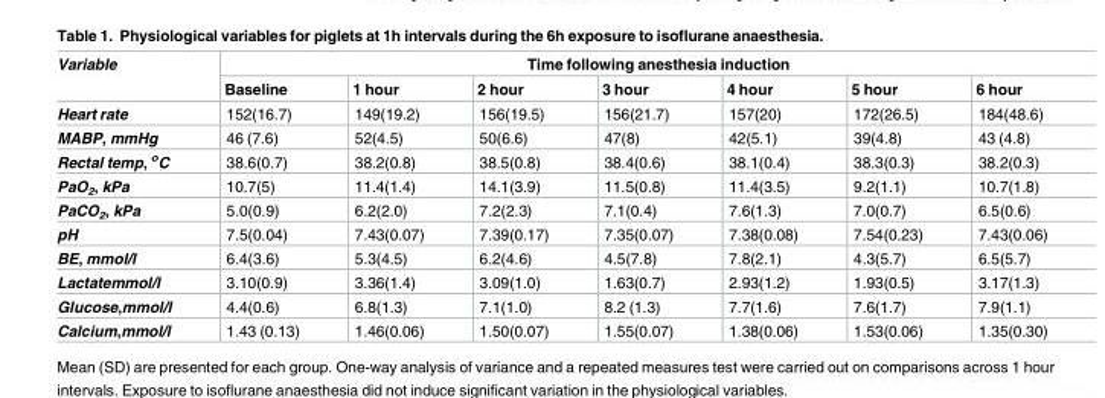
<table><thead><tr><td rowspan="2">Variable</td><td colspan="7">Time following anesthesia induction</td></tr><tr><td>Baseline</td><td>1 hour</td><td>2 hour</td><td>3 hour</td><td>4 hour</td><td>5 hour</td><td>6 hour</td></tr></thead><tbody><tr><td>Heart rate</td><td>152(16.7)</td><td>149(19.2)</td><td>156(19.5)</td><td>156(21.7)</td><td>157(20)</td><td>172(26.5)</td><td>184(48.6)</td></tr><tr><td>MABP, mmHg</td><td>46 (7.6)</td><td>52(4.5)</td><td>50(6.6)</td><td>47(8)</td><td>42(5.1)</td><td>39(4.8)</td><td>43 (4.8)</td></tr><tr><td>Rectal temp, <sup>o</sup>C</td><td>38.6(0.7)</td><td>38.2(0.8)</td><td>38.5(0.8)</td><td>38.4(0.6)</td><td>38.1(0.4)</td><td>38.3(0.3)</td><td>38.2(0.3)</td></tr><tr><td>PaO<sub>2</sub>, kPa</td><td>10.7(5)</td><td>11.4(1.4)</td><td>14.1(3.9)</td><td>11.5(0.8)</td><td>11.4(3.5)</td><td>9.2(1.1)</td><td>10.7(1.8)</td></tr><tr><td>PaCO<sub>2</sub>, kPa</td><td>5.0(0.9)</td><td>6.2(2.0)</td><td>7.2(2.3)</td><td>7.1(0.4)</td><td>7.6(1.3)</td><td>7.0(0.7)</td><td>6.5(0.6)</td></tr><tr><td>pH</td><td>7.5(0.04)</td><td>7.43(0.07)</td><td>7.39(0.17)</td><td>7.35(0.07)</td><td>7.38(0.08)</td><td>7.54(0.23)</td><td>7.43(0.06)</td></tr><tr><td>BE, mmol/l</td><td>6.4(3.6)</td><td>5.3(4.5)</td><td>6.2(4.6)</td><td>4.5(7.8)</td><td>7.8(2.1)</td><td>4.3(5.7)</td><td>6.5(5.7)</td></tr><tr><td>Lactatemmol/l</td><td>3.10(0.9)</td><td>3.36(1.4)</td><td>3.09(1.0)</td><td>1.63(0.7)</td><td>2.93(1.2)</td><td>1.93(0.5)</td><td>3.17(1.3)</td></tr><tr><td>Glucose,mmol/l</td><td>4.4(0.6)</td><td>6.8(1.3)</td><td>7.1(1.0)</td><td>8.2 (1.3)</td><td>7.7(1.6)</td><td>7.6(1.7)</td><td>7.9(1.1)</td></tr><tr><td>Calcium,mmol/l</td><td>1.43 (0.13)</td><td>1.46(0.06)</td><td>1.50(0.07)</td><td>1.55(0.07)</td><td>1.38(0.06)</td><td>1.53(0.06)</td><td>1.35(0.30)</td></tr></tbody></table>